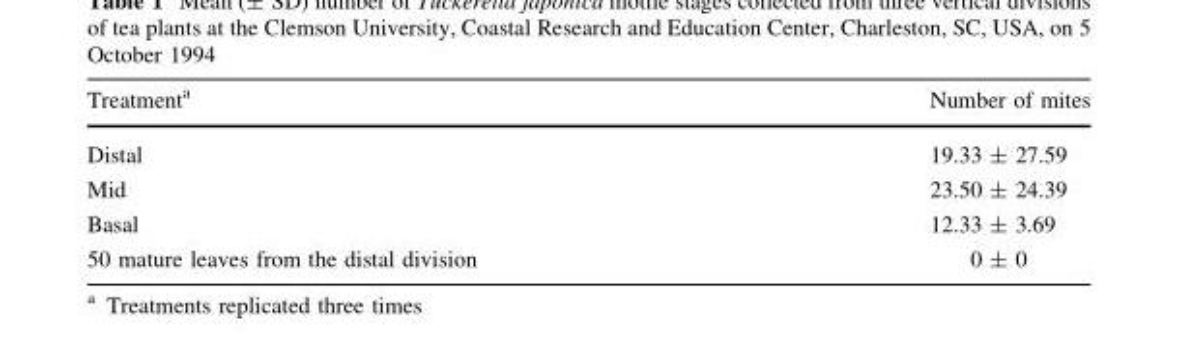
<table><thead><tr><td>Treatment<sup>a</sup></td><td>Number of mites</td></tr></thead><tbody><tr><td>Distal</td><td>19.33 ± 27.59</td></tr><tr><td>Mid</td><td>23.50 ± 24.39</td></tr><tr><td>Basal</td><td>12.33 ± 3.69</td></tr><tr><td>50 mature leaves from the distal division</td><td>0 ± 0</td></tr></tbody></table>